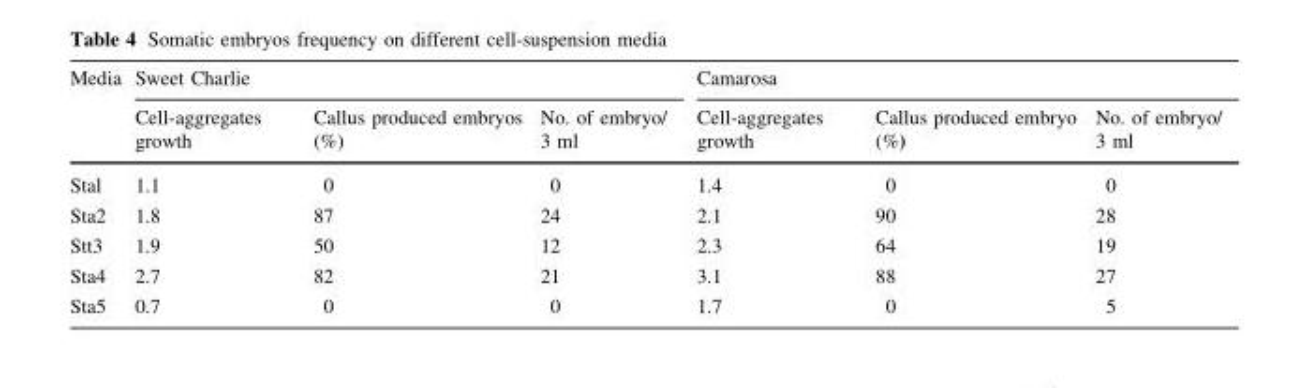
<table><thead><tr><td rowspan="2">Media</td><td colspan="3">Sweet Charlie</td><td colspan="3">Camarosa</td></tr><tr><td>Cell-aggregates growth</td><td>Callus produced embryos (%)</td><td>No. of embryo/ 3 ml</td><td>Cell-aggregates growth</td><td>Callus produced embryo (%)</td><td>No. of embryo/ 3 ml</td></tr></thead><tbody><tr><td>Stal</td><td>1.1</td><td>0</td><td>0</td><td>1.4</td><td>0</td><td>0</td></tr><tr><td>Sta2</td><td>1.8</td><td>87</td><td>24</td><td>2.1</td><td>90</td><td>28</td></tr><tr><td>Stt3</td><td>1.9</td><td>50</td><td>12</td><td>2.3</td><td>64</td><td>19</td></tr><tr><td>Sta4</td><td>2.7</td><td>82</td><td>21</td><td>3.1</td><td>88</td><td>27</td></tr><tr><td>Sta5</td><td>0.7</td><td>0</td><td>0</td><td>1.7</td><td>0</td><td>5</td></tr></tbody></table>